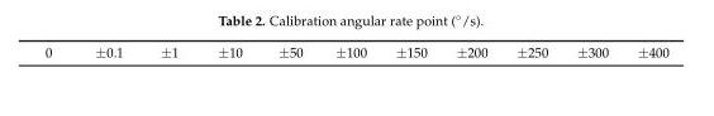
<table><tbody><tr><td>0</td><td>±0.1</td><td>±1</td><td>±10</td><td>±50</td><td>±100</td><td>±150</td><td>±200</td><td>±250</td><td>±300</td><td>±400</td></tr></tbody></table>